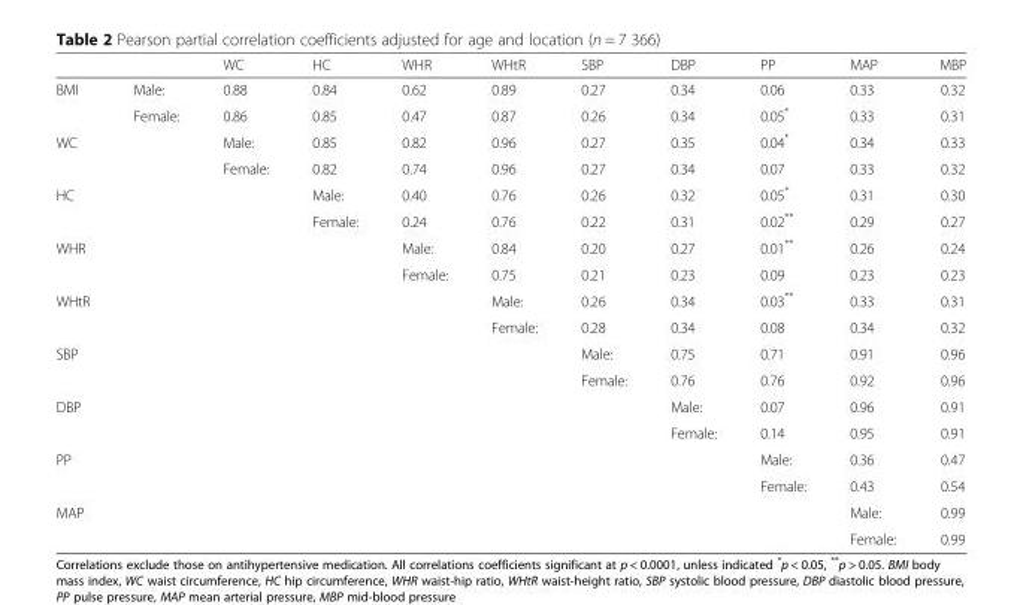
<table><thead><tr><td></td><td></td><td>WC</td><td>HC</td><td>WHR</td><td>WHtR</td><td>SBP</td><td>DBP</td><td>PP</td><td>MAP</td><td>MBP</td></tr></thead><tbody><tr><td rowspan="2">BMI</td><td>Male:</td><td>0.88</td><td>0.84</td><td>0.62</td><td>0.89</td><td>0.27</td><td>0.34</td><td>0.06</td><td>0.33</td><td>0.32</td></tr><tr><td>Female:</td><td>0.86</td><td>0.85</td><td>0.47</td><td>0.87</td><td>0.26</td><td>0.34</td><td>0.05*</td><td>0.33</td><td>0.31</td></tr><tr><td rowspan="2">WC</td><td></td><td>Male:</td><td>0.85</td><td>0.82</td><td>0.96</td><td>0.27</td><td>0.35</td><td>0.04*</td><td>0.34</td><td>0.33</td></tr><tr><td></td><td>Female:</td><td>0.82</td><td>0.74</td><td>0.96</td><td>0.27</td><td>0.34</td><td>0.07</td><td>0.33</td><td>0.32</td></tr><tr><td rowspan="2">HC</td><td></td><td></td><td>Male:</td><td>0.40</td><td>0.76</td><td>0.26</td><td>0.32</td><td>0.05*</td><td>0.31</td><td>0.30</td></tr><tr><td></td><td></td><td>Female:</td><td>0.24</td><td>0.76</td><td>0.22</td><td>0.31</td><td>0.02**</td><td>0.29</td><td>0.27</td></tr><tr><td rowspan="2">WHR</td><td></td><td></td><td></td><td>Male:</td><td>0.84</td><td>0.20</td><td>0.27</td><td>0.01**</td><td>0.26</td><td>0.24</td></tr><tr><td></td><td></td><td></td><td>Female:</td><td>0.75</td><td>0.21</td><td>0.23</td><td>0.09</td><td>0.23</td><td>0.23</td></tr><tr><td rowspan="2">WHtR</td><td></td><td></td><td></td><td></td><td>Male:</td><td>0.26</td><td>0.34</td><td>0.03**</td><td>0.33</td><td>0.31</td></tr><tr><td></td><td></td><td></td><td></td><td>Female:</td><td>0.28</td><td>0.34</td><td>0.08</td><td>0.34</td><td>0.32</td></tr><tr><td rowspan="2">SBP</td><td></td><td></td><td></td><td></td><td></td><td>Male:</td><td>0.75</td><td>0.71</td><td>0.91</td><td>0.96</td></tr><tr><td></td><td></td><td></td><td></td><td></td><td>Female:</td><td>0.76</td><td>0.76</td><td>0.92</td><td>0.96</td></tr><tr><td rowspan="2">DBP</td><td></td><td></td><td></td><td></td><td></td><td></td><td>Male:</td><td>0.07</td><td>0.96</td><td>0.91</td></tr><tr><td></td><td></td><td></td><td></td><td></td><td></td><td>Female:</td><td>0.14</td><td>0.95</td><td>0.91</td></tr><tr><td rowspan="2">PP</td><td></td><td></td><td></td><td></td><td></td><td></td><td></td><td>Male:</td><td>0.36</td><td>0.47</td></tr><tr><td></td><td></td><td></td><td></td><td></td><td></td><td></td><td>Female:</td><td>0.43</td><td>0.54</td></tr><tr><td rowspan="2">MAP</td><td></td><td></td><td></td><td></td><td></td><td></td><td></td><td></td><td>Male:</td><td>0.99</td></tr><tr><td></td><td></td><td></td><td></td><td></td><td></td><td></td><td></td><td>Female:</td><td>0.99</td></tr></tbody></table>